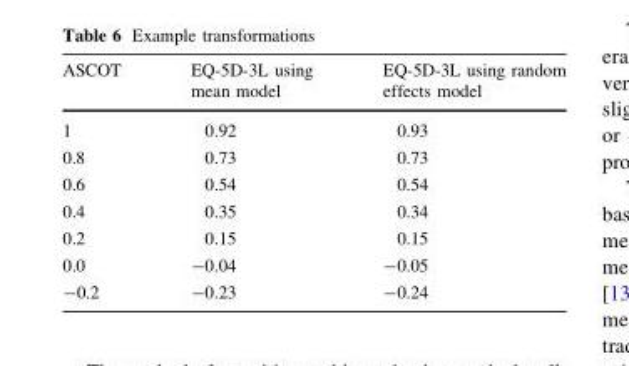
<table><thead><tr><td>ASCOT</td><td>EQ-5D-3L using mean model</td><td>EQ-5D-3L using random effects model</td></tr></thead><tbody><tr><td>1</td><td>0.92</td><td>0.93</td></tr><tr><td>0.8</td><td>0.73</td><td>0.73</td></tr><tr><td>0.6</td><td>0.54</td><td>0.54</td></tr><tr><td>0.4</td><td>0.35</td><td>0.34</td></tr><tr><td>0.2</td><td>0.15</td><td>0.15</td></tr><tr><td>0.0</td><td>-0.04</td><td>-0.05</td></tr><tr><td>-0.2</td><td>-0.23</td><td>-0.24</td></tr></tbody></table>